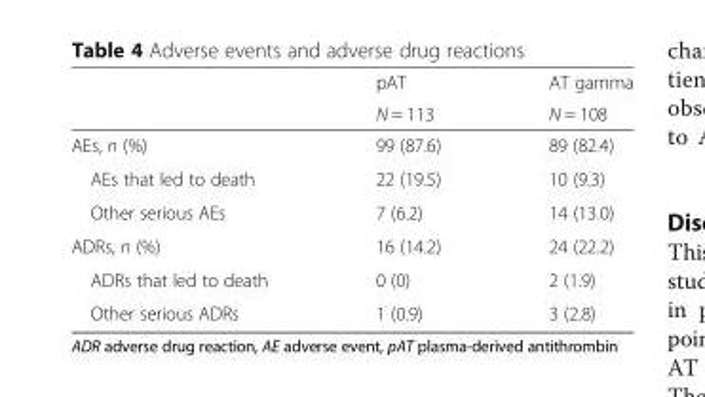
<table><thead><tr><td rowspan="2"></td><td rowspan="2">pAT N = 113</td><td rowspan="2">AT gamma N = 108</td></tr><tr></tr></thead><tbody><tr><td>AEs, n (%)</td><td>99 (87.6)</td><td>89 (82.4)</td></tr><tr><td>AEs that led to death</td><td>22 (19.5)</td><td>10 (9.3)</td></tr><tr><td>Other serious AEs</td><td>7 (6.2)</td><td>14 (13.0)</td></tr><tr><td>ADRs, n (%)</td><td>16 (14.2)</td><td>24 (22.2)</td></tr><tr><td>ADRs that led to death</td><td>0 (0)</td><td>2 (1.9)</td></tr><tr><td>Other serious ADRs</td><td>1 (0.9)</td><td>3 (2.8)</td></tr></tbody></table>